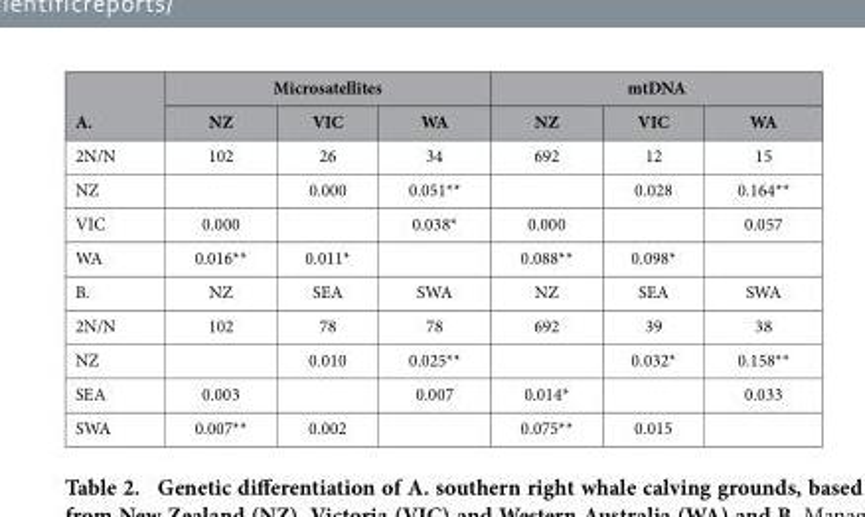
<table><thead><tr><td rowspan="2">A.</td><td colspan="3">Microsatellites</td><td colspan="3">mtDNA</td></tr><tr><td>NZ</td><td>VIC</td><td>WA</td><td>NZ</td><td>VIC</td><td>WA</td></tr></thead><tbody><tr><td>2N/N</td><td>102</td><td>26</td><td>34</td><td>692</td><td>12</td><td>15</td></tr><tr><td>NZ</td><td></td><td>0.000</td><td>0.051**</td><td></td><td>0.028</td><td>0.164**</td></tr><tr><td>VIC</td><td>0.000</td><td></td><td>0.038*</td><td>0.000</td><td></td><td>0.057</td></tr><tr><td>WA</td><td>0.016**</td><td>0.011*</td><td></td><td>0.088**</td><td>0.098*</td><td></td></tr><tr><td>B.</td><td>NZ</td><td>SEA</td><td>SWA</td><td>NZ</td><td>SEA</td><td>SWA</td></tr><tr><td>2N/N</td><td>102</td><td>78</td><td>78</td><td>692</td><td>39</td><td>38</td></tr><tr><td>NZ</td><td></td><td>0.010</td><td>0.025**</td><td></td><td>0.032*</td><td>0.158**</td></tr><tr><td>SEA</td><td>0.003</td><td></td><td>0.007</td><td>0.014*</td><td></td><td>0.033</td></tr><tr><td>SWA</td><td>0.007**</td><td>0.002</td><td></td><td>0.075**</td><td>0.015</td><td></td></tr></tbody></table>